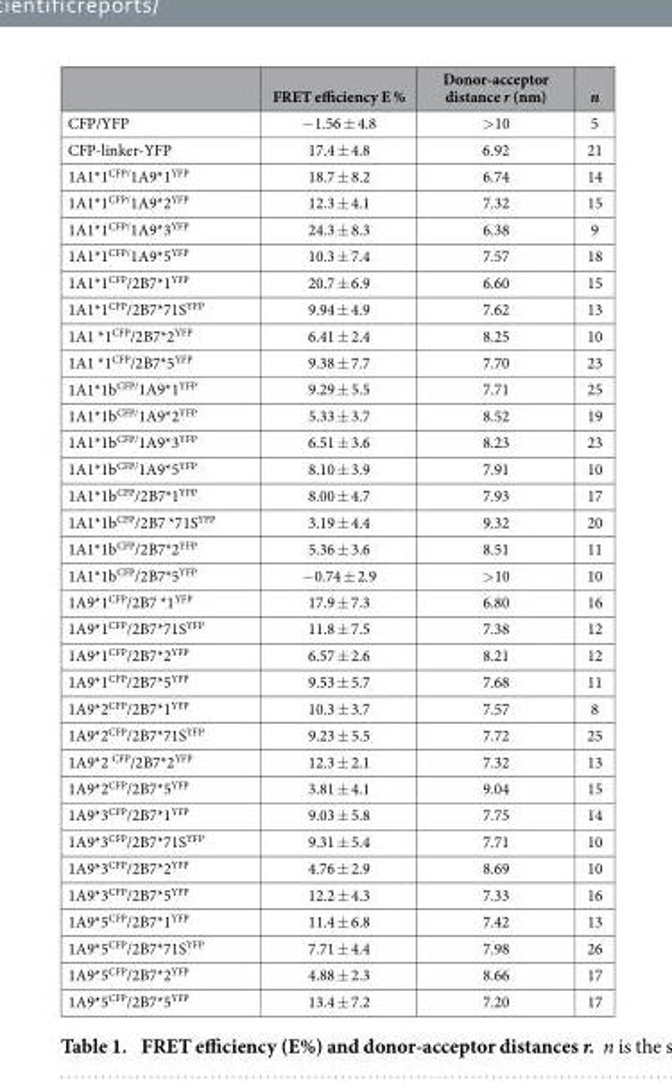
<table><thead><tr><td></td><td>FRET efficiency E %</td><td>Donor-acceptor distance r (nm)</td><td>n</td></tr></thead><tbody><tr><td>CFP/YFP</td><td>− 1.56 ± 4.8</td><td>&gt; 10</td><td>5</td></tr><tr><td>CFP-linker-YFP</td><td>17.4 ± 4.8</td><td>6.92</td><td>21</td></tr><tr><td>1A1*1<sup>CFP/</sup>1A9*1<sup>YFP</sup></td><td>18.7 ± 8.2</td><td>6.74</td><td>14</td></tr><tr><td>1A1*1<sup>CFP/</sup>1A9*2<sup>YFP</sup></td><td>12.3 ± 4.1</td><td>7.32</td><td>15</td></tr><tr><td>1A1*1<sup>CFP/</sup>1A9*3<sup>YFP</sup></td><td>24.3 ± 8.3</td><td>6.38</td><td>9</td></tr><tr><td>1A1*1<sup>CFP/</sup>1A9*5<sup>YFP</sup></td><td>10.3 ± 7.4</td><td>7.57</td><td>18</td></tr><tr><td>1A1*1<sup>CFP</sup>/2B7*1<sup>YFP</sup></td><td>20.7 ± 6.9</td><td>6.60</td><td>15</td></tr><tr><td>1A1*1<sup>CFP</sup>/2B7*71S<sup>YFP</sup></td><td>9.94 ± 4.9</td><td>7.62</td><td>13</td></tr><tr><td>1A1 *1<sup>CFP</sup>/2B7*2<sup>YFP</sup></td><td>6.41 ± 2.4</td><td>8.25</td><td>10</td></tr><tr><td>1A1 *1<sup>CFP</sup>/2B7*5<sup>YFP</sup></td><td>9.38 ± 7.7</td><td>7.70</td><td>23</td></tr><tr><td>1A1*1b<sup>CFP/</sup>1A9*1<sup>YFP</sup></td><td>9.29 ± 5.5</td><td>7.71</td><td>25</td></tr><tr><td>1A1*1b<sup>CFP/</sup>1A9*2<sup>YFP</sup></td><td>5.33 ± 3.7</td><td>8.52</td><td>19</td></tr><tr><td>1A1*1b<sup>CFP/</sup>1A9*3<sup>YFP</sup></td><td>6.51 ± 3.6</td><td>8.23</td><td>23</td></tr><tr><td>1A1*1b<sup>CFP/</sup>1A9*5<sup>YFP</sup></td><td>8.10 ± 3.9</td><td>7.91</td><td>10</td></tr><tr><td>1A1*1b<sup>CFP</sup>/2B7*1<sup>YFP</sup></td><td>8.00 ± 4.7</td><td>7.93</td><td>17</td></tr><tr><td>1A1*1b<sup>CFP</sup>/2B7 *71S<sup>YFP</sup></td><td>3.19 ± 4.4</td><td>9.32</td><td>20</td></tr><tr><td>1A1*1b<sup>CFP</sup>/2B7*2<sup>YFP</sup></td><td>5.36 ± 3.6</td><td>8.51</td><td>11</td></tr><tr><td>1A1*1b<sup>CFP</sup>/2B7*5<sup>YFP</sup></td><td>− 0.74 ± 2.9</td><td>&gt; 10</td><td>10</td></tr><tr><td>1A9*1<sup>CFP</sup>/2B7 *1<sup>YFP</sup></td><td>17.9 ± 7.3</td><td>6.80</td><td>16</td></tr><tr><td>1A9*1<sup>CFP</sup>/2B7*71S<sup>YFP</sup></td><td>11.8 ± 7.5</td><td>7.38</td><td>12</td></tr><tr><td>1A9*1<sup>CFP</sup>/2B7*2<sup>YFP</sup></td><td>6.57 ± 2.6</td><td>8.21</td><td>12</td></tr><tr><td>1A9*1<sup>CFP</sup>/2B7*5<sup>YFP</sup></td><td>9.53 ± 5.7</td><td>7.68</td><td>11</td></tr><tr><td>1A9*2<sup>CFP</sup>/2B7*1<sup>YFP</sup></td><td>10.3 ± 3.7</td><td>7.57</td><td>8</td></tr><tr><td>1A9*2<sup>CFP</sup>/2B7*71S<sup>YFP</sup></td><td>9.23 ± 5.5</td><td>7.72</td><td>25</td></tr><tr><td>1A9*2 <sup>CFP</sup>/2B7*2<sup>YFP</sup></td><td>12.3 ± 2.1</td><td>7.32</td><td>13</td></tr><tr><td>1A9*2<sup>CFP</sup>/2B7*5<sup>YFP</sup></td><td>3.81 ± 4.1</td><td>9.04</td><td>15</td></tr><tr><td>1A9*3<sup>CFP</sup>/2B7*1<sup>YFP</sup></td><td>9.03 ± 5.8</td><td>7.75</td><td>14</td></tr><tr><td>1A9*3<sup>CFP</sup>/2B7*71S<sup>YFP</sup></td><td>9.31 ± 5.4</td><td>7.71</td><td>10</td></tr><tr><td>1A9*3<sup>CFP</sup>/2B7*2<sup>YFP</sup></td><td>4.76 ± 2.9</td><td>8.69</td><td>10</td></tr><tr><td>1A9*3<sup>CFP</sup>/2B7*5<sup>YFP</sup></td><td>12.2 ± 4.3</td><td>7.33</td><td>16</td></tr><tr><td>1A9*5<sup>CFP</sup>/2B7*1<sup>YFP</sup></td><td>11.4 ± 6.8</td><td>7.42</td><td>13</td></tr><tr><td>1A9*5<sup>CFP</sup>/2B7*71S<sup>YFP</sup></td><td>7.71 ± 4.4</td><td>7.98</td><td>26</td></tr><tr><td>1A9*5<sup>CFP</sup>/2B7*2<sup>YFP</sup></td><td>4.88 ± 2.3</td><td>8.66</td><td>17</td></tr><tr><td>1A9*5<sup>CFP</sup>/2B7*5<sup>YFP</sup></td><td>13.4 ± 7.2</td><td>7.20</td><td>17</td></tr></tbody></table>